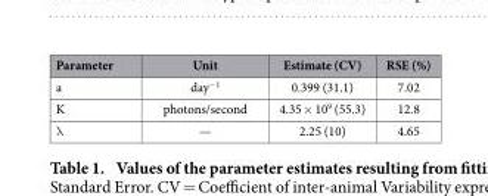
<table><thead><tr><td>Parameter</td><td>Unit</td><td>Estimate (CV)</td><td>RSE (%)</td></tr></thead><tbody><tr><td>a</td><td>day<sup>−1</sup></td><td>0.399 (31.1)</td><td>7.02</td></tr><tr><td>K</td><td>photons/second</td><td>4.35 × 10<sup>9</sup> (55.3)</td><td>12.8</td></tr><tr><td>λ</td><td>—</td><td>2.25 (10)</td><td>4.65</td></tr></tbody></table>